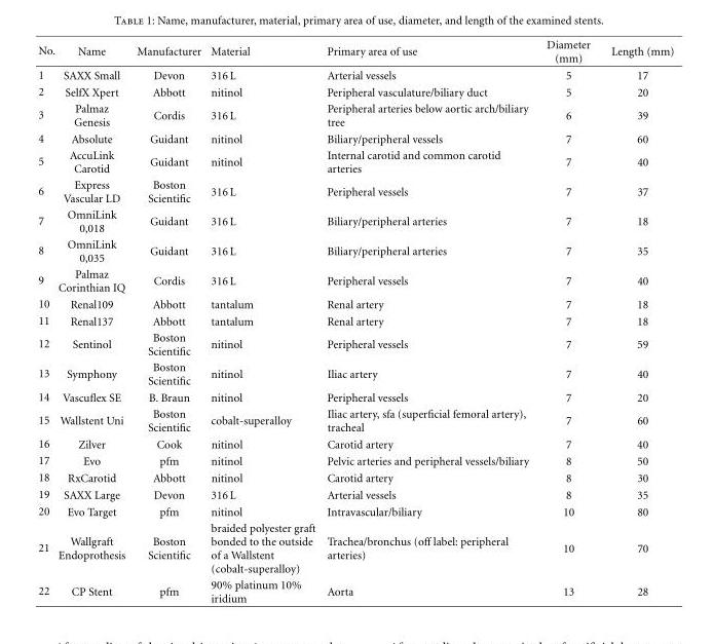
<table><thead><tr><td>No.</td><td>Name</td><td>Manufacturer</td><td>Material</td><td>Primary area of use</td><td>Diameter (mm)</td><td>Length (mm)</td></tr></thead><tbody><tr><td>1</td><td>SAXX Small</td><td>Devon</td><td>316 L</td><td>Arterial vessels</td><td>5</td><td>17</td></tr><tr><td>2</td><td>SelfX Xpert</td><td>Abbott</td><td>nitinol</td><td>Peripheral vasculature/biliary duct</td><td>5</td><td>20</td></tr><tr><td>3</td><td>Palmaz Genesis</td><td>Cordis</td><td>316 L</td><td>Peripheral arteries below aortic arch/biliary tree</td><td>6</td><td>39</td></tr><tr><td>4</td><td>Absolute</td><td>Guidant</td><td>nitinol</td><td>Biliary/peripheral vessels</td><td>7</td><td>60</td></tr><tr><td>5</td><td>AccuLink Carotid</td><td>Guidant</td><td>nitinol</td><td>Internal carotid and common carotid arteries</td><td>7</td><td>40</td></tr><tr><td>6</td><td>Express Vascular LD</td><td>Boston Scientific</td><td>316 L</td><td>Peripheral vessels</td><td>7</td><td>37</td></tr><tr><td>7</td><td>OmniLink 0,018</td><td>Guidant</td><td>316 L</td><td>Biliary/peripheral arteries</td><td>7</td><td>18</td></tr><tr><td>8</td><td>OmniLink 0,035</td><td>Guidant</td><td>316 L</td><td>Biliary/peripheral arteries</td><td>7</td><td>35</td></tr><tr><td>9</td><td>Palmaz Corinthian IQ</td><td>Cordis</td><td>316 L</td><td>Peripheral vessels</td><td>7</td><td>40</td></tr><tr><td>10</td><td>Renal109</td><td>Abbott</td><td>tantalum</td><td>Renal artery</td><td>7</td><td>18</td></tr><tr><td>11</td><td>Renal137</td><td>Abbott</td><td>tantalum</td><td>Renal artery</td><td>7</td><td>18</td></tr><tr><td>12</td><td>Sentinol</td><td>Boston Scientific</td><td>nitinol</td><td>Peripheral vessels</td><td>7</td><td>59</td></tr><tr><td>13</td><td>Symphony</td><td>Boston Scientific</td><td>nitinol</td><td>Iliac artery</td><td>7</td><td>40</td></tr><tr><td>14</td><td>Vascuflex SE</td><td>B. Braun</td><td>nitinol</td><td>Peripheral vessels</td><td>7</td><td>20</td></tr><tr><td>15</td><td>Wallstent Uni</td><td>Boston Scientific</td><td>cobalt-superalloy</td><td>Iliac artery, sfa (superficial femoral artery), tracheal</td><td>7</td><td>60</td></tr><tr><td>16</td><td>Zilver</td><td>Cook</td><td>nitinol</td><td>Carotid artery</td><td>7</td><td>40</td></tr><tr><td>17</td><td>Evo</td><td>pfm</td><td>nitinol</td><td>Pelvic arteries and peripheral vessels/biliary</td><td>8</td><td>50</td></tr><tr><td>18</td><td>RxCarotid</td><td>Abbott</td><td>nitinol</td><td>Carotid artery</td><td>8</td><td>30</td></tr><tr><td>19</td><td>SAXX Large</td><td>Devon</td><td>316 L</td><td>Arterial vessels</td><td>8</td><td>35</td></tr><tr><td>20</td><td>Evo Target</td><td>pfm</td><td>nitinol</td><td>Intravascular/biliary</td><td>10</td><td>80</td></tr><tr><td>21</td><td>Wallgraft Endoprothesis</td><td>Boston Scientific</td><td>braided polyester graft bonded to the outside of a Wallstent (cobalt-superalloy)</td><td>Trachea/bronchus (off label: peripheral arteries)</td><td>10</td><td>70</td></tr><tr><td>22</td><td>CP Stent</td><td>pfm</td><td>90% platinum 10% iridium</td><td>Aorta</td><td>13</td><td>28</td></tr></tbody></table>